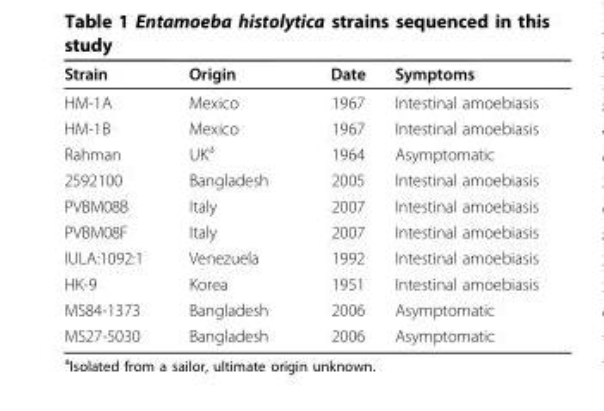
<table><thead><tr><td>Strain</td><td>Origin</td><td>Date</td><td>Symptoms</td></tr></thead><tbody><tr><td>HM-1A</td><td>Mexico</td><td>1967</td><td>Intestinal amoebiasis</td></tr><tr><td>HM-1B</td><td>Mexico</td><td>1967</td><td>Intestinal amoebiasis</td></tr><tr><td>Rahman</td><td>UK<sup>a</sup></td><td>1964</td><td>Asymptomatic</td></tr><tr><td>2592100</td><td>Bangladesh</td><td>2005</td><td>Intestinal amoebiasis</td></tr><tr><td>PVBM08B</td><td>Italy</td><td>2007</td><td>Intestinal amoebiasis</td></tr><tr><td>PVBM08F</td><td>Italy</td><td>2007</td><td>Intestinal amoebiasis</td></tr><tr><td>IULA:1092:1</td><td>Venezuela</td><td>1992</td><td>Intestinal amoebiasis</td></tr><tr><td>HK-9</td><td>Korea</td><td>1951</td><td>Intestinal amoebiasis</td></tr><tr><td>MS84-1373</td><td>Bangladesh</td><td>2006</td><td>Asymptomatic</td></tr><tr><td>MS27-5030</td><td>Bangladesh</td><td>2006</td><td>Asymptomatic</td></tr></tbody></table>